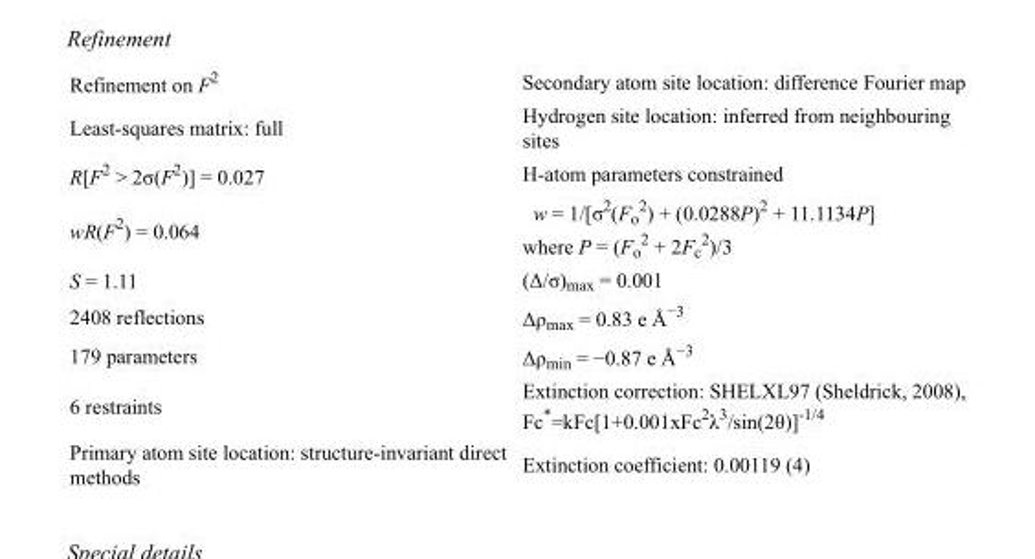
<table><tbody><tr><td>Refinement on F<sup>2</sup></td><td>Secondary atom site location: difference Fourier map</td></tr><tr><td>Least-squares matrix: full</td><td>Hydrogen site location: inferred from neighbouring sites</td></tr><tr><td>R[F<sup>2</sup> &gt; 2σ(F<sup>2</sup>)] = 0.027</td><td>H-atom parameters constrained</td></tr><tr><td>wR(F<sup>2</sup>) = 0.064</td><td>w = 1/[σ<sup>2</sup>(F<sub>o</sub> <sup>2</sup>) + (0.0288P)<sup>2</sup> + 11.1134P] where P = (F<sub>o</sub> <sup>2</sup> + 2F<sub>c</sub> <sup>2</sup>)/3</td></tr><tr><td>S = 1.11</td><td>(Δ/σ)<sub>max</sub> = 0.001</td></tr><tr><td>2408 reflections</td><td>Δρ<sub>max</sub> = 0.83 e Å<sup>−3</sup></td></tr><tr><td>179 parameters</td><td>Δρ<sub>min</sub> = −0.87 e Å<sup>−3</sup></td></tr><tr><td>6 restraints</td><td>Extinction correction: SHELXL97 (Sheldrick, 2008), Fc*=kFc[1+0.001xFc<sup>2</sup>λ<sup>3</sup>/sin(2θ)]<sup>-1/4</sup></td></tr><tr><td>Primary atom site location: structure-invariant direct methods</td><td>Extinction coefficient: 0.00119 (4)</td></tr></tbody></table>